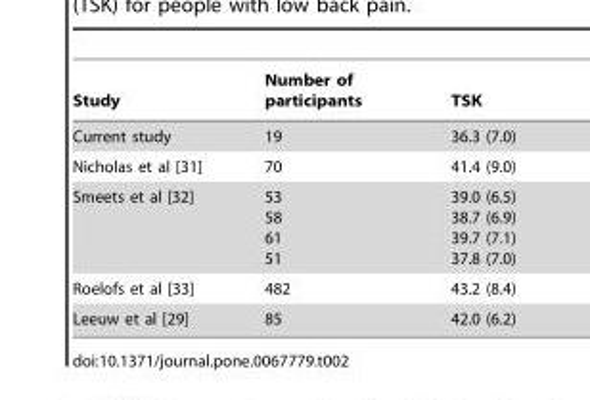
<table><thead><tr><td>Study</td><td>Number of participants</td><td>TSK</td></tr></thead><tbody><tr><td>Current study</td><td>19</td><td>36.3 (7.0)</td></tr><tr><td>Nicholas et al [31]</td><td>70</td><td>41.4 (9.0)</td></tr><tr><td>Smeets et al [32]</td><td>53 58 61 51</td><td>39.0 (6.5) 38.7 (6.9) 39.7 (7.1) 37.8 (7.0)</td></tr><tr><td>Roelofs et al [33]</td><td>482</td><td>43.2 (8.4)</td></tr><tr><td>Leeuw et al [29]</td><td>85</td><td>42.0 (6.2)</td></tr></tbody></table>